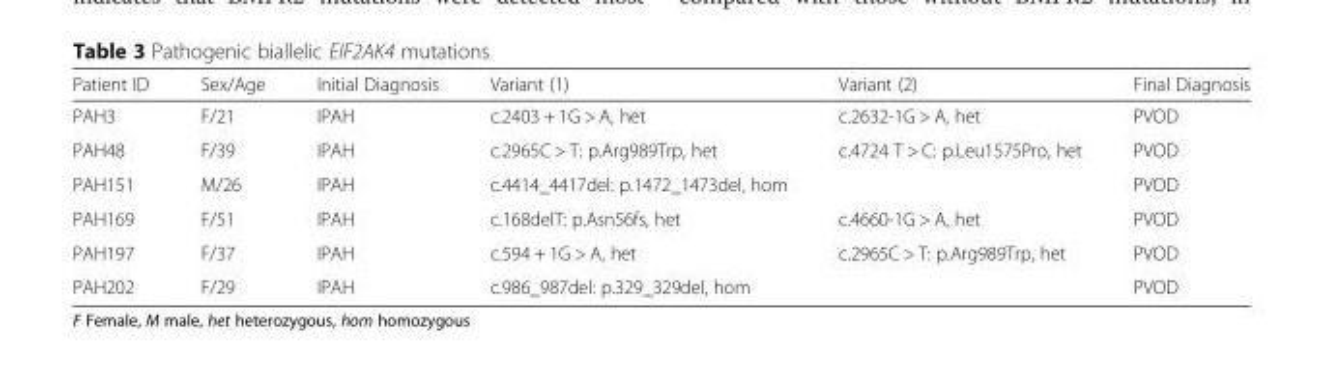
<table><thead><tr><td>Patient ID</td><td>Sex/Age</td><td>Initial Diagnosis</td><td>Variant (1)</td><td>Variant (2)</td><td>Final Diagnosis</td></tr></thead><tbody><tr><td>PAH3</td><td>F/21</td><td>IPAH</td><td>c.2403 + 1G &gt; A, het</td><td>c.2632-1G &gt; A, het</td><td>PVOD</td></tr><tr><td>PAH48</td><td>F/39</td><td>IPAH</td><td>c.2965C &gt; T: p.Arg989Trp, het</td><td>c.4724 T &gt; C: p.Leu1575Pro, het</td><td>PVOD</td></tr><tr><td>PAH151</td><td>M/26</td><td>IPAH</td><td>c.4414_4417del: p.1472_1473del, hom</td><td></td><td>PVOD</td></tr><tr><td>PAH169</td><td>F/51</td><td>IPAH</td><td>c.168delT: p.Asn56fs, het</td><td>c.4660-1G &gt; A, het</td><td>PVOD</td></tr><tr><td>PAH197</td><td>F/37</td><td>IPAH</td><td>c.594 + 1G &gt; A, het</td><td>c.2965C &gt; T: p.Arg989Trp, het</td><td>PVOD</td></tr><tr><td>PAH202</td><td>F/29</td><td>IPAH</td><td>c.986_987del: p.329_329del, hom</td><td></td><td>PVOD</td></tr></tbody></table>